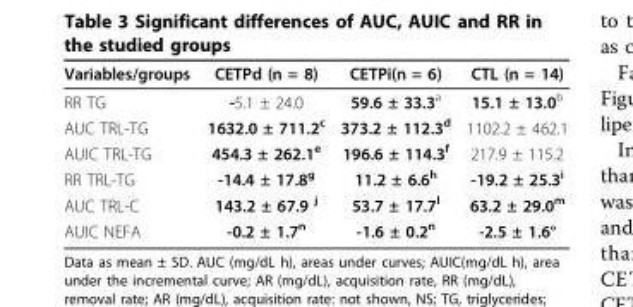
<table><thead><tr><td>Variables/groups</td><td>CETPd (n = 8)</td><td>CETPi(n = 6)</td><td>CTL (n = 14)</td></tr></thead><tbody><tr><td>RR TG</td><td>-5.1 ± 24.0</td><td>59.6 ± 33.3<sup>a</sup></td><td>15.1 ± 13.0<sup>b</sup></td></tr><tr><td>AUC TRL-TG</td><td>1632.0 ± 711.2<sup>c</sup></td><td>373.2 ± 112.3<sup>d</sup></td><td>1102.2 ± 462.1</td></tr><tr><td>AUIC TRL-TG</td><td>454.3 ± 262.1<sup>e</sup></td><td>196.6 ± 114.3<sup>f</sup></td><td>217.9 ± 115.2</td></tr><tr><td>RR TRL-TG</td><td>-14.4 ± 17.8<sup>g</sup></td><td>11.2 ± 6.6<sup>h</sup></td><td>-19.2 ± 25.3<sup>i</sup></td></tr><tr><td>AUC TRL-C</td><td>143.2 ± 67.9 <sup>j</sup></td><td>53.7 ± 17.7<sup>l</sup></td><td>63.2 ± 29.0<sup>m</sup></td></tr><tr><td>AUIC NEFA</td><td>-0.2 ± 1.7<sup>n</sup></td><td>-1.6 ± 0.2<sup>n</sup></td><td>-2.5 ± 1.6°</td></tr></tbody></table>